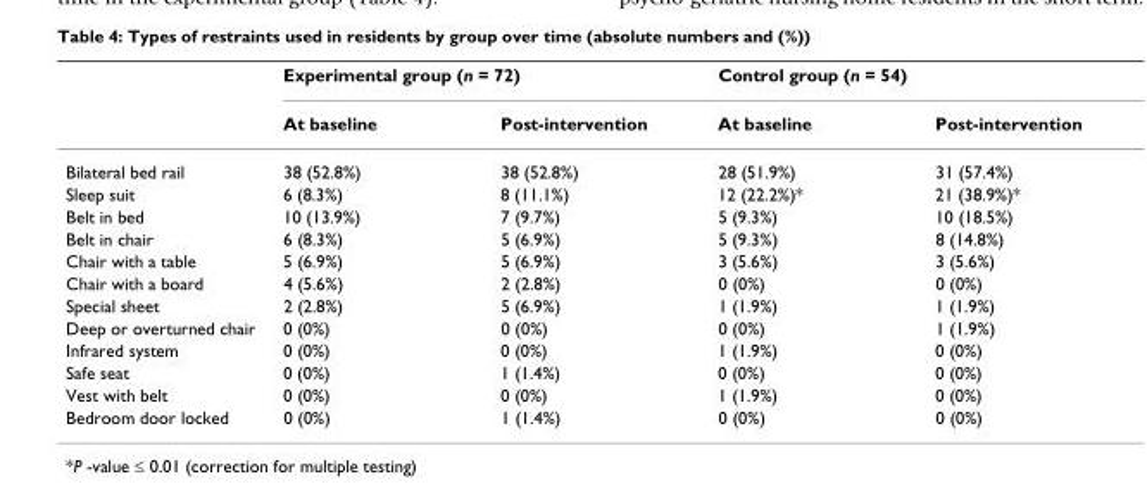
<table><thead><tr><td rowspan="2"></td><td colspan="2">Experimental group (n = 72)</td><td colspan="2">Control group (n = 54)</td></tr><tr><td>At baseline</td><td>Post-intervention</td><td>At baseline</td><td>Post-intervention</td></tr></thead><tbody><tr><td>Bilateral bed rail</td><td>38 (52.8%)</td><td>38 (52.8%)</td><td>28 (51.9%)</td><td>31 (57.4%)</td></tr><tr><td>Sleep suit</td><td>6 (8.3%)</td><td>8 (11.1%)</td><td>12 (22.2%)*</td><td>21 (38.9%)*</td></tr><tr><td>Belt in bed</td><td>10 (13.9%)</td><td>7 (9.7%)</td><td>5 (9.3%)</td><td>10 (18.5%)</td></tr><tr><td>Belt in chair</td><td>6 (8.3%)</td><td>5 (6.9%)</td><td>5 (9.3%)</td><td>8 (14.8%)</td></tr><tr><td>Chair with a table</td><td>5 (6.9%)</td><td>5 (6.9%)</td><td>3 (5.6%)</td><td>3 (5.6%)</td></tr><tr><td>Chair with a board</td><td>4 (5.6%)</td><td>2 (2.8%)</td><td>0 (0%)</td><td>0 (0%)</td></tr><tr><td>Special sheet</td><td>2 (2.8%)</td><td>5 (6.9%)</td><td>1 (1.9%)</td><td>1 (1.9%)</td></tr><tr><td>Deep or overturned chair</td><td>0 (0%)</td><td>0 (0%)</td><td>0 (0%)</td><td>1 (1.9%)</td></tr><tr><td>Infrared system</td><td>0 (0%)</td><td>0 (0%)</td><td>1 (1.9%)</td><td>0 (0%)</td></tr><tr><td>Safe seat</td><td>0 (0%)</td><td>1 (1.4%)</td><td>0 (0%)</td><td>0 (0%)</td></tr><tr><td>Vest with belt</td><td>0 (0%)</td><td>0 (0%)</td><td>1 (1.9%)</td><td>0 (0%)</td></tr><tr><td>Bedroom door locked</td><td>0 (0%)</td><td>1 (1.4%)</td><td>0 (0%)</td><td>0 (0%)</td></tr></tbody></table>